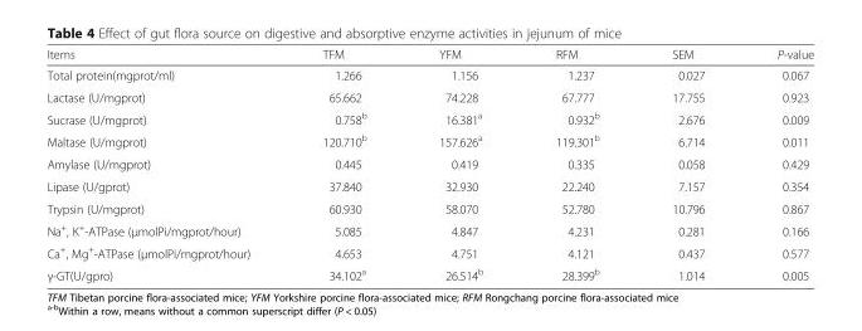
<table><thead><tr><td>Items</td><td>TFM</td><td>YFM</td><td>RFM</td><td>SEM</td><td>P-value</td></tr></thead><tbody><tr><td>Total protein(mgprot/ml)</td><td>1.266</td><td>1.156</td><td>1.237</td><td>0.027</td><td>0.067</td></tr><tr><td>Lactase (U/mgprot)</td><td>65.662</td><td>74.228</td><td>67.777</td><td>17.755</td><td>0.923</td></tr><tr><td>Sucrase (U/mgprot)</td><td>0.758<sup>b</sup></td><td>16.381<sup>a</sup></td><td>0.932<sup>b</sup></td><td>2.676</td><td>0.009</td></tr><tr><td>Maltase (U/mgprot)</td><td>120.710<sup>b</sup></td><td>157.626<sup>a</sup></td><td>119.301<sup>b</sup></td><td>6.714</td><td>0.011</td></tr><tr><td>Amylase (U/mgprot)</td><td>0.445</td><td>0.419</td><td>0.335</td><td>0.058</td><td>0.429</td></tr><tr><td>Lipase (U/gprot)</td><td>37.840</td><td>32.930</td><td>22.240</td><td>7.157</td><td>0.354</td></tr><tr><td>Trypsin (U/mgprot)</td><td>60.930</td><td>58.070</td><td>52.780</td><td>10.796</td><td>0.867</td></tr><tr><td>Na<sup>+</sup>, K<sup>+</sup>-ATPase (μmolPi/mgprot/hour)</td><td>5.085</td><td>4.847</td><td>4.231</td><td>0.281</td><td>0.166</td></tr><tr><td>Ca<sup>+</sup>, Mg<sup>+</sup>-ATPase (μmolPi/mgprot/hour)</td><td>4.653</td><td>4.751</td><td>4.121</td><td>0.437</td><td>0.577</td></tr><tr><td>γ-GT(U/gpro)</td><td>34.102<sup>a</sup></td><td>26.514<sup>b</sup></td><td>28.399<sup>b</sup></td><td>1.014</td><td>0.005</td></tr></tbody></table>